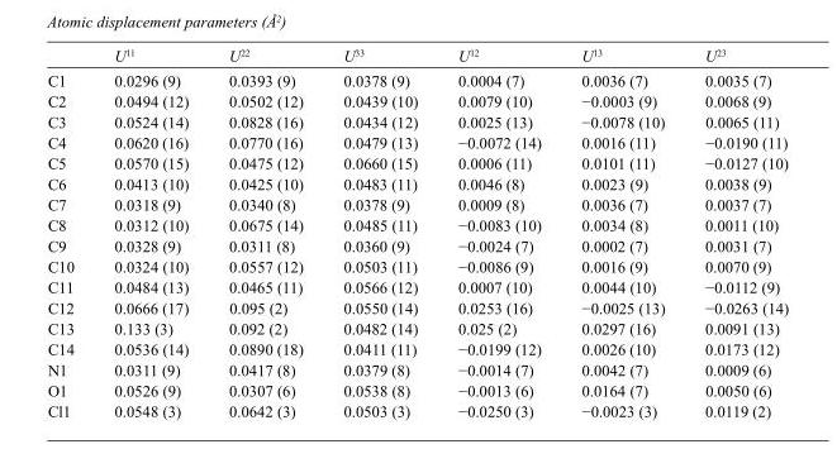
<table><thead><tr><td></td><td>U<sup>11</sup></td><td>U<sup>22</sup></td><td>U<sup>33</sup></td><td>U<sup>12</sup></td><td>U<sup>13</sup></td><td>U<sup>23</sup></td></tr></thead><tbody><tr><td>C1</td><td>0.0296 (9)</td><td>0.0393 (9)</td><td>0.0378 (9)</td><td>0.0004 (7)</td><td>0.0036 (7)</td><td>0.0035 (7)</td></tr><tr><td>C2</td><td>0.0494 (12)</td><td>0.0502 (12)</td><td>0.0439 (10)</td><td>0.0079 (10)</td><td>−0.0003 (9)</td><td>0.0068 (9)</td></tr><tr><td>C3</td><td>0.0524 (14)</td><td>0.0828 (16)</td><td>0.0434 (12)</td><td>0.0025 (13)</td><td>−0.0078 (10)</td><td>0.0065 (11)</td></tr><tr><td>C4</td><td>0.0620 (16)</td><td>0.0770 (16)</td><td>0.0479 (13)</td><td>−0.0072 (14)</td><td>0.0016 (11)</td><td>−0.0190 (11)</td></tr><tr><td>C5</td><td>0.0570 (15)</td><td>0.0475 (12)</td><td>0.0660 (15)</td><td>0.0006 (11)</td><td>0.0101 (11)</td><td>−0.0127 (10)</td></tr><tr><td>C6</td><td>0.0413 (10)</td><td>0.0425 (10)</td><td>0.0483 (11)</td><td>0.0046 (8)</td><td>0.0023 (9)</td><td>0.0038 (9)</td></tr><tr><td>C7</td><td>0.0318 (9)</td><td>0.0340 (8)</td><td>0.0378 (9)</td><td>0.0009 (8)</td><td>0.0036 (7)</td><td>0.0037 (7)</td></tr><tr><td>C8</td><td>0.0312 (10)</td><td>0.0675 (14)</td><td>0.0485 (11)</td><td>−0.0083 (10)</td><td>0.0034 (8)</td><td>0.0011 (10)</td></tr><tr><td>C9</td><td>0.0328 (9)</td><td>0.0311 (8)</td><td>0.0360 (9)</td><td>−0.0024 (7)</td><td>0.0002 (7)</td><td>0.0031 (7)</td></tr><tr><td>C10</td><td>0.0324 (10)</td><td>0.0557 (12)</td><td>0.0503 (11)</td><td>−0.0086 (9)</td><td>0.0016 (9)</td><td>0.0070 (9)</td></tr><tr><td>C11</td><td>0.0484 (13)</td><td>0.0465 (11)</td><td>0.0566 (12)</td><td>0.0007 (10)</td><td>0.0044 (10)</td><td>−0.0112 (9)</td></tr><tr><td>C12</td><td>0.0666 (17)</td><td>0.095 (2)</td><td>0.0550 (14)</td><td>0.0253 (16)</td><td>−0.0025 (13)</td><td>−0.0263 (14)</td></tr><tr><td>C13</td><td>0.133 (3)</td><td>0.092 (2)</td><td>0.0482 (14)</td><td>0.025 (2)</td><td>0.0297 (16)</td><td>0.0091 (13)</td></tr><tr><td>C14</td><td>0.0536 (14)</td><td>0.0890 (18)</td><td>0.0411 (11)</td><td>−0.0199 (12)</td><td>0.0026 (10)</td><td>0.0173 (12)</td></tr><tr><td>N1</td><td>0.0311 (9)</td><td>0.0417 (8)</td><td>0.0379 (8)</td><td>−0.0014 (7)</td><td>0.0042 (7)</td><td>0.0009 (6)</td></tr><tr><td>O1</td><td>0.0526 (9)</td><td>0.0307 (6)</td><td>0.0538 (8)</td><td>−0.0013 (6)</td><td>0.0164 (7)</td><td>0.0050 (6)</td></tr><tr><td>Cl1</td><td>0.0548 (3)</td><td>0.0642 (3)</td><td>0.0503 (3)</td><td>−0.0250 (3)</td><td>−0.0023 (3)</td><td>0.0119 (2)</td></tr></tbody></table>